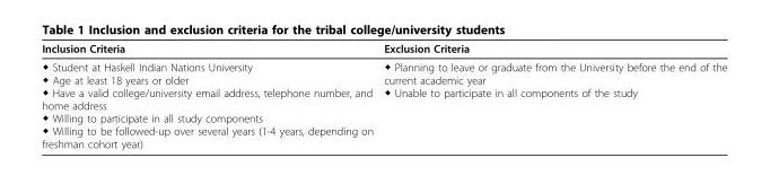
<table><thead><tr><td>Inclusion Criteria</td><td>Exclusion Criteria</td></tr></thead><tbody><tr><td>◆ Student at Haskell Indian Nations University ◆ Age at least 18 years or older ◆ Have a valid college/university email address, telephone number, and home address ◆ Willing to participate in all study components ◆ Willing to be followed-up over several years (1-4 years, depending on freshman cohort year)</td><td>◆ Planning to leave or graduate from the University before the end of the current academic year ◆ Unable to participate in all components of the study</td></tr></tbody></table>